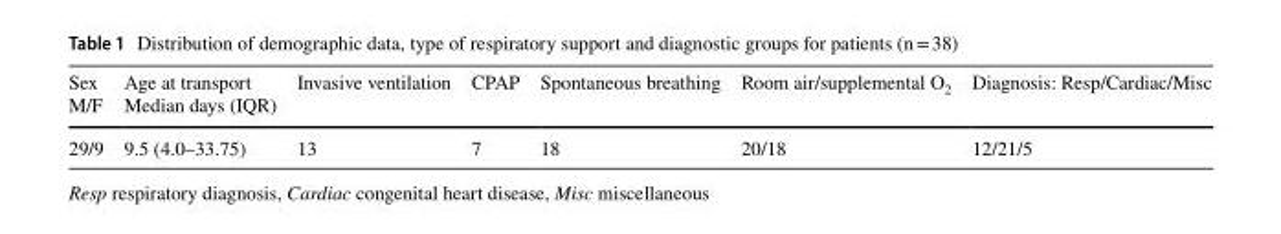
<table><thead><tr><td>Sex M/F</td><td>Age at transport Median days (IQR)</td><td>Invasive ventilation</td><td>CPAP</td><td>Spontaneous breathing</td><td>Room air/supplemental O<sub>2</sub></td><td>Diagnosis: Resp/Cardiac/Misc</td></tr></thead><tbody><tr><td>29/9</td><td>9.5 (4.0–33.75)</td><td>13</td><td>7</td><td>18</td><td>20/18</td><td>12/21/5</td></tr></tbody></table>